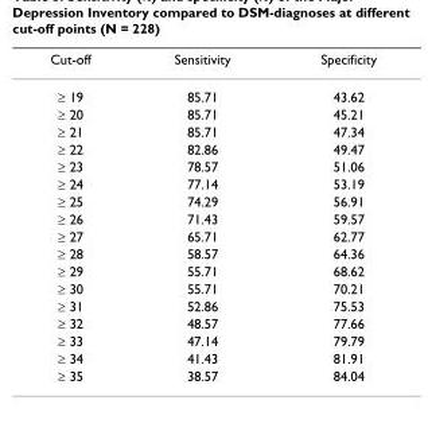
<table><thead><tr><td>Cut-off</td><td>Sensitivity</td><td>Specificity</td></tr></thead><tbody><tr><td>≥ 19</td><td>85.71</td><td>43.62</td></tr><tr><td>≥ 20</td><td>85.71</td><td>45.21</td></tr><tr><td>≥ 21</td><td>85.71</td><td>47.34</td></tr><tr><td>≥ 22</td><td>82.86</td><td>49.47</td></tr><tr><td>≥ 23</td><td>78.57</td><td>51.06</td></tr><tr><td>≥ 24</td><td>77.14</td><td>53.19</td></tr><tr><td>≥ 25</td><td>74.29</td><td>56.91</td></tr><tr><td>≥ 26</td><td>71.43</td><td>59.57</td></tr><tr><td>≥ 27</td><td>65.71</td><td>62.77</td></tr><tr><td>≥ 28</td><td>58.57</td><td>64.36</td></tr><tr><td>≥ 29</td><td>55.71</td><td>68.62</td></tr><tr><td>≥ 30</td><td>55.71</td><td>70.21</td></tr><tr><td>≥ 31</td><td>52.86</td><td>75.53</td></tr><tr><td>≥ 32</td><td>48.57</td><td>77.66</td></tr><tr><td>≥ 33</td><td>47.14</td><td>79.79</td></tr><tr><td>≥ 34</td><td>41.43</td><td>81.91</td></tr><tr><td>≥ 35</td><td>38.57</td><td>84.04</td></tr></tbody></table>